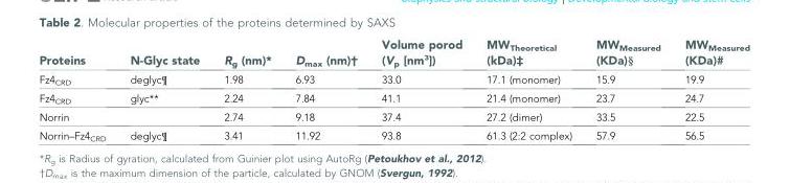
<table><thead><tr><td>Proteins</td><td>N-Glyc state</td><td>R<sub>g</sub> (nm)*</td><td>D<sub>max</sub> (nm)†</td><td>Volume porod (V<sub>p</sub> [nm<sup>3</sup>])</td><td>MW<sub>Theoretical</sub> (kDa)‡</td><td>MW<sub>Measured</sub> (KDa)§</td><td>MW<sub>Measured</sub> (KDa)#</td></tr></thead><tbody><tr><td>Fz4<sub>CRD</sub></td><td>deglyc¶</td><td>1.98</td><td>6.93</td><td>33.0</td><td>17.1 (monomer)</td><td>15.9</td><td>19.9</td></tr><tr><td>Fz4<sub>CRD</sub></td><td>glyc**</td><td>2.24</td><td>7.84</td><td>41.1</td><td>21.4 (monomer)</td><td>23.7</td><td>24.7</td></tr><tr><td>Norrin</td><td></td><td>2.74</td><td>9.18</td><td>37.4</td><td>27.2 (dimer)</td><td>33.5</td><td>22.5</td></tr><tr><td>Norrin–Fz4<sub>CRD</sub></td><td>deglyc¶</td><td>3.41</td><td>11.92</td><td>93.8</td><td>61.3 (2:2 complex)</td><td>57.9</td><td>56.5</td></tr></tbody></table>